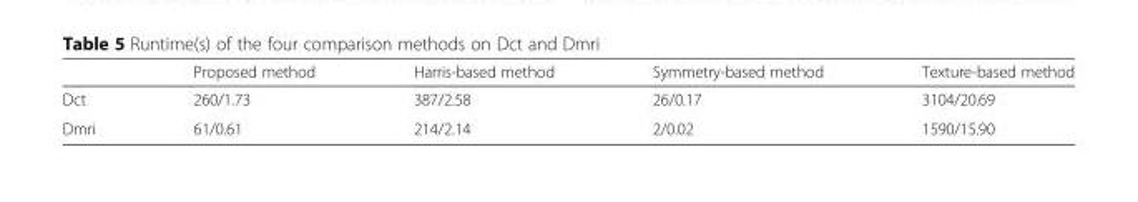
<table><thead><tr><td></td><td>Proposed method</td><td>Harris-based method</td><td>Symmetry-based method</td><td>Texture-based method</td></tr></thead><tbody><tr><td>Dct</td><td>260/1.73</td><td>387/2.58</td><td>26/0.17</td><td>3104/20.69</td></tr><tr><td>Dmri</td><td>61/0.61</td><td>214/2.14</td><td>2/0.02</td><td>1590/15.90</td></tr></tbody></table>